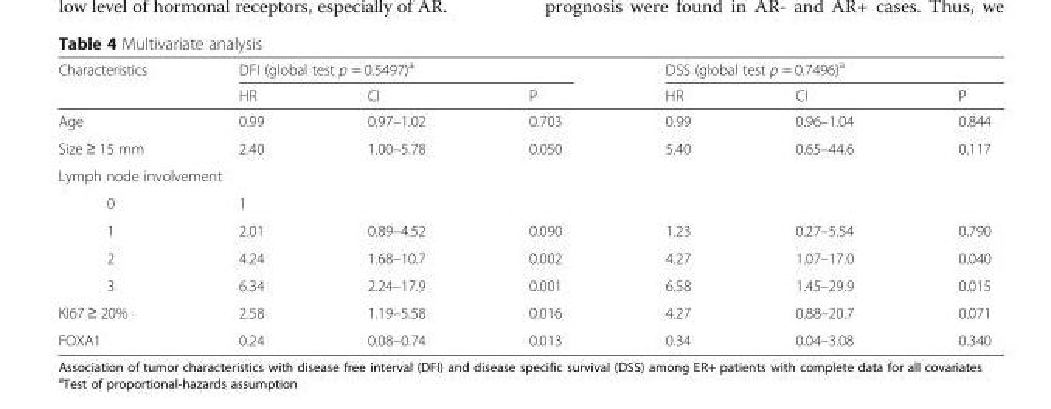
<table><thead><tr><td rowspan="2">Characteristics</td><td colspan="3">DFI (global test p = 0.5497)<sup>a</sup></td><td colspan="3">DSS (global test p = 0.7496)<sup>a</sup></td></tr><tr><td>HR</td><td>CI</td><td>P</td><td>HR</td><td>CI</td><td>P</td></tr></thead><tbody><tr><td>Age</td><td>0.99</td><td>0.97–1.02</td><td>0.703</td><td>0.99</td><td>0.96–1.04</td><td>0.844</td></tr><tr><td>Size ≥ 15 mm</td><td>2.40</td><td>1.00–5.78</td><td>0.050</td><td>5.40</td><td>0.65–44.6</td><td>0.117</td></tr><tr><td colspan="7">Lymph node involvement</td></tr><tr><td>0</td><td>1</td><td colspan="5"></td></tr><tr><td>1</td><td>2.01</td><td>0.89–4.52</td><td>0.090</td><td>1.23</td><td>0.27–5.54</td><td>0.790</td></tr><tr><td>2</td><td>4.24</td><td>1.68–10.7</td><td>0.002</td><td>4.27</td><td>1.07–17.0</td><td>0.040</td></tr><tr><td>3</td><td>6.34</td><td>2.24–17.9</td><td>0.001</td><td>6.58</td><td>1.45–29.9</td><td>0.015</td></tr><tr><td>KI67 ≥ 20%</td><td>2.58</td><td>1.19–5.58</td><td>0.016</td><td>4.27</td><td>0.88–20.7</td><td>0.071</td></tr><tr><td>FOXA1</td><td>0.24</td><td>0.08–0.74</td><td>0.013</td><td>0.34</td><td>0.04–3.08</td><td>0.340</td></tr></tbody></table>